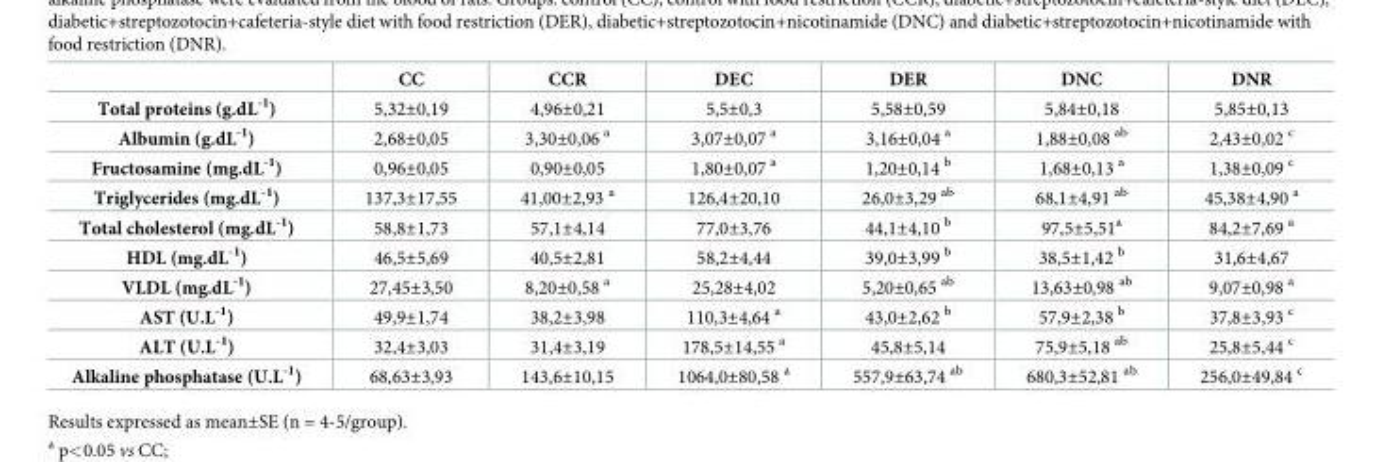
<table><thead><tr><td></td><td>CC</td><td>CCR</td><td>DEC</td><td>DER</td><td>DNC</td><td>DNR</td></tr></thead><tbody><tr><td>Total proteins (g.dL<sup>-1</sup>)</td><td>5,32±0,19</td><td>4,96±0,21</td><td>5,5±0,3</td><td>5,58±0,59</td><td>5,84±0,18</td><td>5,85±0,13</td></tr><tr><td>Albumin (g.dL<sup>-1</sup>)</td><td>2,68±0,05</td><td>3,30±0,06 <sup>a</sup></td><td>3,07±0,07 <sup>a</sup></td><td>3,16±0,04 <sup>a</sup></td><td>1,88±0,08 <sup>ab</sup></td><td>2,43±0,02 <sup>c</sup></td></tr><tr><td>Fructosamine (mg.dL<sup>-1</sup>)</td><td>0,96±0,05</td><td>0,90±0,05</td><td>1,80±0,07 <sup>a</sup></td><td>1,20±0,14 <sup>b</sup></td><td>1,68±0,13 <sup>a</sup></td><td>1,38±0,09 <sup>c</sup></td></tr><tr><td>Triglycerides (mg.dL<sup>-1</sup>)</td><td>137,3±17,55</td><td>41,00±2,93 <sup>a</sup></td><td>126,4±20,10</td><td>26,0±3,29 <sup>ab</sup></td><td>68,1±4,91 <sup>ab</sup></td><td>45,38±4,90 <sup>a</sup></td></tr><tr><td>Total cholesterol (mg.dL<sup>-1</sup>)</td><td>58,8±1,73</td><td>57,1±4,14</td><td>77,0±3,76</td><td>44,1±4,10 <sup>b</sup></td><td>97,5±5,51<sup>a</sup></td><td>84,2±7,69 <sup>a</sup></td></tr><tr><td>HDL (mg.dL<sup>-1</sup>)</td><td>46,5±5,69</td><td>40,5±2,81</td><td>58,2±4,44</td><td>39,0±3,99 <sup>b</sup></td><td>38,5±1,42 <sup>b</sup></td><td>31,6±4,67</td></tr><tr><td>VLDL (mg.dL<sup>-1</sup>)</td><td>27,45±3,50</td><td>8,20±0,58 <sup>a</sup></td><td>25,28±4,02</td><td>5,20±0,65 <sup>ab</sup></td><td>13,63±0,98 <sup>ab</sup></td><td>9,07±0,98 <sup>a</sup></td></tr><tr><td>AST (U.L<sup>-1</sup>)</td><td>49,9±1,74</td><td>38,2±3,98</td><td>110,3±4,64 <sup>a</sup></td><td>43,0±2,62 <sup>b</sup></td><td>57,9±2,38 <sup>b</sup></td><td>37,8±3,93 <sup>c</sup></td></tr><tr><td>ALT (U.L<sup>-1</sup>)</td><td>32,4±3,03</td><td>31,4±3,19</td><td>178,5±14,55 <sup>a</sup></td><td>45,8±5,14</td><td>75,9±5,18 <sup>ab</sup></td><td>25,8±5,44 <sup>c</sup></td></tr><tr><td>Alkaline phosphatase (U.L<sup>-1</sup>)</td><td>68,63±3,93</td><td>143,6±10,15</td><td>1064,0±80,58 <sup>a</sup></td><td>557,9±63,74 <sup>ab</sup></td><td>680,3±52,81 <sup>ab</sup></td><td>256,0±49,84 <sup>c</sup></td></tr></tbody></table>